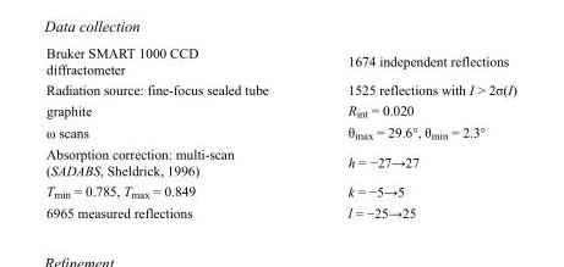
<table><tbody><tr><td>Bruker SMART 1000 CCD diffractometer</td><td>1674 independent reflections</td></tr><tr><td>Radiation source: fine-focus sealed tube</td><td>1525 reflections with I &gt; 2σ(I)</td></tr><tr><td>graphite</td><td>R<sub>int</sub> = 0.020</td></tr><tr><td>ω scans</td><td>θ<sub>max</sub> = 29.6°, θ<sub>min</sub> = 2.3°</td></tr><tr><td>Absorption correction: multi-scan (SADABS, Sheldrick, 1996)</td><td>h = −27→27</td></tr><tr><td>T<sub>min</sub> = 0.785, T<sub>max</sub> = 0.849</td><td>k = −5→5</td></tr><tr><td>6965 measured reflections</td><td>l = −25→25</td></tr></tbody></table>